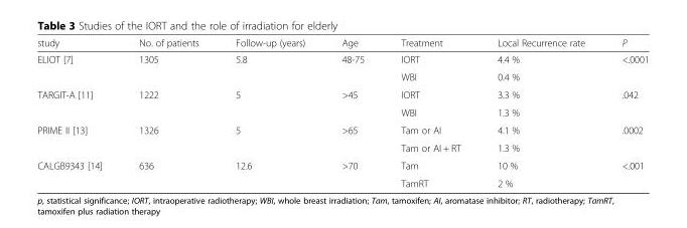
<table><thead><tr><td>study</td><td>No. of patients</td><td>Follow-up (years)</td><td>Age</td><td>Treatment</td><td>Local Recurrence rate</td><td>P</td></tr></thead><tbody><tr><td rowspan="2">ELIOT [7]</td><td>1305</td><td>5.8</td><td>48-75</td><td>IORT</td><td>4.4 %</td><td>&lt;.0001</td></tr><tr><td></td><td></td><td></td><td>WBI</td><td>0.4 %</td><td></td></tr><tr><td rowspan="2">TARGIT-A [11]</td><td>1222</td><td>5</td><td>&gt;45</td><td>IORT</td><td>3.3 %</td><td>.042</td></tr><tr><td></td><td></td><td></td><td>WBI</td><td>1.3 %</td><td></td></tr><tr><td rowspan="2">PRIME II [13]</td><td>1326</td><td>5</td><td>&gt;65</td><td>Tam or AI</td><td>4.1 %</td><td>.0002</td></tr><tr><td></td><td></td><td></td><td>Tam or AI + RT</td><td>1.3 %</td><td></td></tr><tr><td rowspan="2">CALGB9343 [14]</td><td>636</td><td>12.6</td><td>&gt;70</td><td>Tam</td><td>10 %</td><td>&lt;.001</td></tr><tr><td></td><td></td><td></td><td>TamRT</td><td>2 %</td><td></td></tr></tbody></table>